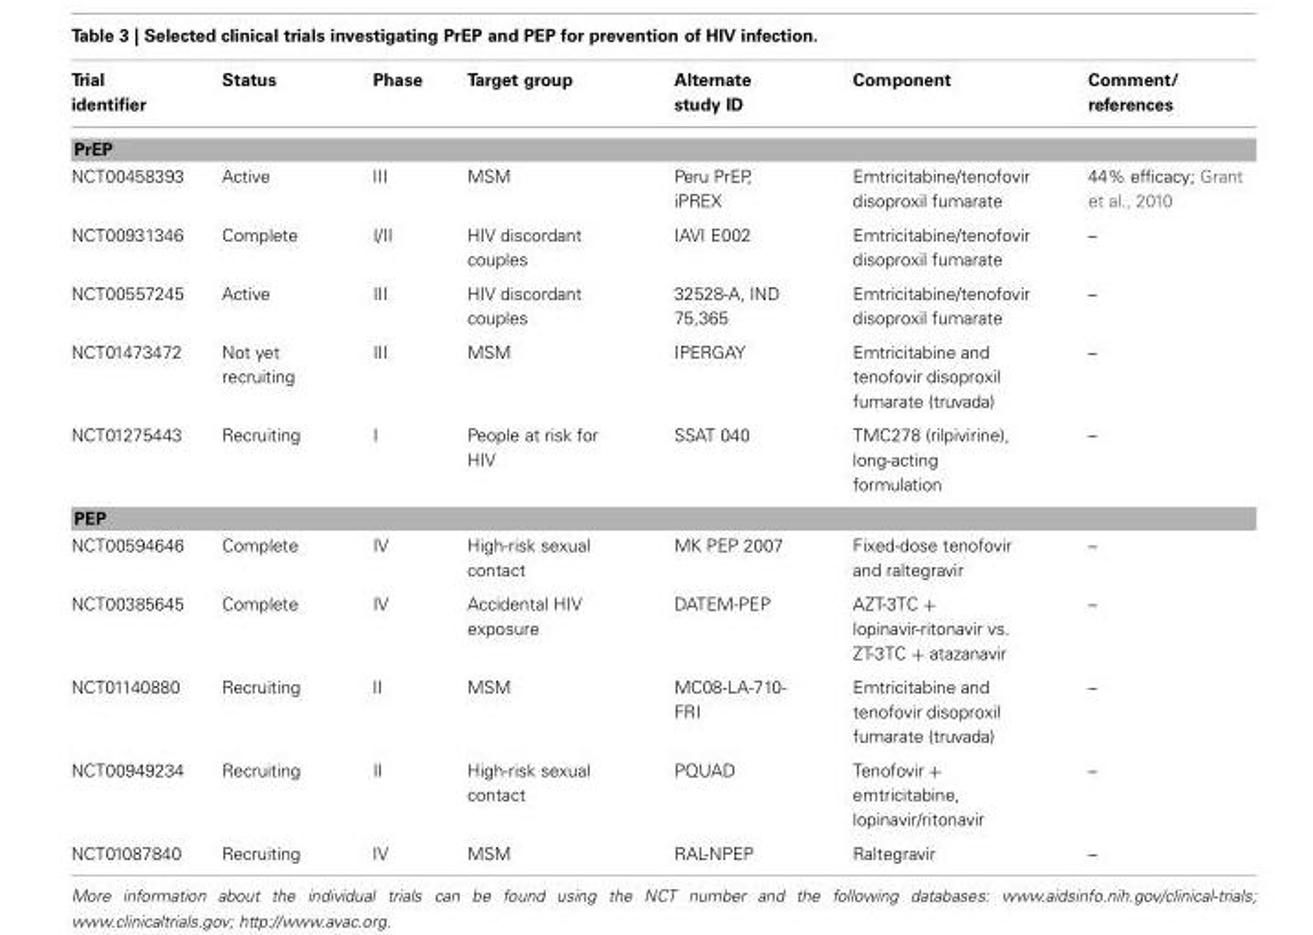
<table><thead><tr><td>Trial identifier</td><td>Status</td><td>Phase</td><td>Target group</td><td>Alternate study ID</td><td>Component</td><td>Comment/ references</td></tr></thead><tbody><tr><td colspan="7">PrEP</td></tr><tr><td>NCT00458393</td><td>Active</td><td>III</td><td>MSM</td><td>Peru PrEP, iPREX</td><td>Emtricitabine/tenofovir disoproxil fumarate</td><td>44% efficacy; Grant et al., 2010</td></tr><tr><td>NCT00931346</td><td>Complete</td><td>I/II</td><td>HIV discordant couples</td><td>IAVI E002</td><td>Emtricitabine/tenofovir disoproxil fumarate</td><td>–</td></tr><tr><td>NCT00557245</td><td>Active</td><td>III</td><td>HIV discordant couples</td><td>32528-A, IND 75,365</td><td>Emtricitabine/tenofovir disoproxil fumarate</td><td>–</td></tr><tr><td>NCT01473472</td><td>Not yet recruiting</td><td>III</td><td>MSM</td><td>IPERGAY</td><td>Emtricitabine and tenofovir disoproxil fumarate (truvada)</td><td>–</td></tr><tr><td>NCT01275443</td><td>Recruiting</td><td>I</td><td>People at risk for HIV</td><td>SSAT 040</td><td>TMC278 (rilpivirine), long-acting formulation</td><td>–</td></tr><tr><td colspan="7">PEP</td></tr><tr><td>NCT00594646</td><td>Complete</td><td>IV</td><td>High-risk sexual contact</td><td>MK PEP 2007</td><td>Fixed-dose tenofovir and raltegravir</td><td>–</td></tr><tr><td>NCT00385645</td><td>Complete</td><td>IV</td><td>Accidental HIV exposure</td><td>DATEM-PEP</td><td>AZT-3TC + lopinavir-ritonavir vs. ZT-3TC + atazanavir</td><td>–</td></tr><tr><td>NCT01140880</td><td>Recruiting</td><td>II</td><td>MSM</td><td>MC08-LA-710- FRI</td><td>Emtricitabine and tenofovir disoproxil fumarate (truvada)</td><td>–</td></tr><tr><td>NCT00949234</td><td>Recruiting</td><td>II</td><td>High-risk sexual contact</td><td>PQUAD</td><td>Tenofovir + emtricitabine, lopinavir/ritonavir</td><td>–</td></tr><tr><td>NCT01087840</td><td>Recruiting</td><td>IV</td><td>MSM</td><td>RAL-NPEP</td><td>Raltegravir</td><td>–</td></tr></tbody></table>